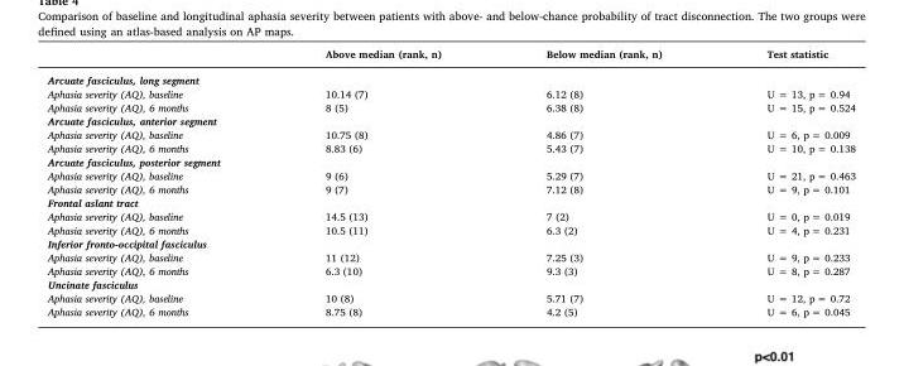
<table><thead><tr><td></td><td>Above median (rank, n)</td><td>Below median (rank, n)</td><td>Test statistic</td></tr></thead><tbody><tr><td colspan="4">Arcuate fasciculus, long segment</td></tr><tr><td>Aphasia severity (AQ), baseline</td><td>10.14 (7)</td><td>6.12 (8)</td><td>U = 13, p = 0.94</td></tr><tr><td>Aphasia severity (AQ), 6 months</td><td>8 (5)</td><td>6.38 (8)</td><td>U = 15, p = 0.524</td></tr><tr><td colspan="4">Arcuate fasciculus, anterior segment</td></tr><tr><td>Aphasia severity (AQ), baseline</td><td>10.75 (8)</td><td>4.86 (7)</td><td>U = 6, p = 0.009</td></tr><tr><td>Aphasia severity (AQ), 6 months</td><td>8.83 (6)</td><td>5.43 (7)</td><td>U = 10, p = 0.138</td></tr><tr><td colspan="4">Arcuate fasciculus, posterior segment</td></tr><tr><td>Aphasia severity (AQ), baseline</td><td>9 (6)</td><td>5.29 (7)</td><td>U = 21, p = 0.463</td></tr><tr><td>Aphasia severity (AQ), 6 months</td><td>9 (7)</td><td>7.12 (8)</td><td>U = 9, p = 0.101</td></tr><tr><td colspan="4">Frontal aslant tract</td></tr><tr><td>Aphasia severity (AQ), baseline</td><td>14.5 (13)</td><td>7 (2)</td><td>U = 0, p = 0.019</td></tr><tr><td>Aphasia severity (AQ), 6 months</td><td>10.5 (11)</td><td>6.3 (2)</td><td>U = 4, p = 0.231</td></tr><tr><td colspan="4">Inferior fronto-occipital fasciculus</td></tr><tr><td>Aphasia severity (AQ), baseline</td><td>11 (12)</td><td>7.25 (3)</td><td>U = 9, p = 0.233</td></tr><tr><td>Aphasia severity (AQ), 6 months</td><td>6.3 (10)</td><td>9.3 (3)</td><td>U = 8, p = 0.287</td></tr><tr><td colspan="4">Uncinate fasciculus</td></tr><tr><td>Aphasia severity (AQ), baseline</td><td>10 (8)</td><td>5.71 (7)</td><td>U = 12, p = 0.72</td></tr><tr><td>Aphasia severity (AQ), 6 months</td><td>8.75 (8)</td><td>4.2 (5)</td><td>U = 6, p = 0.045</td></tr></tbody></table>